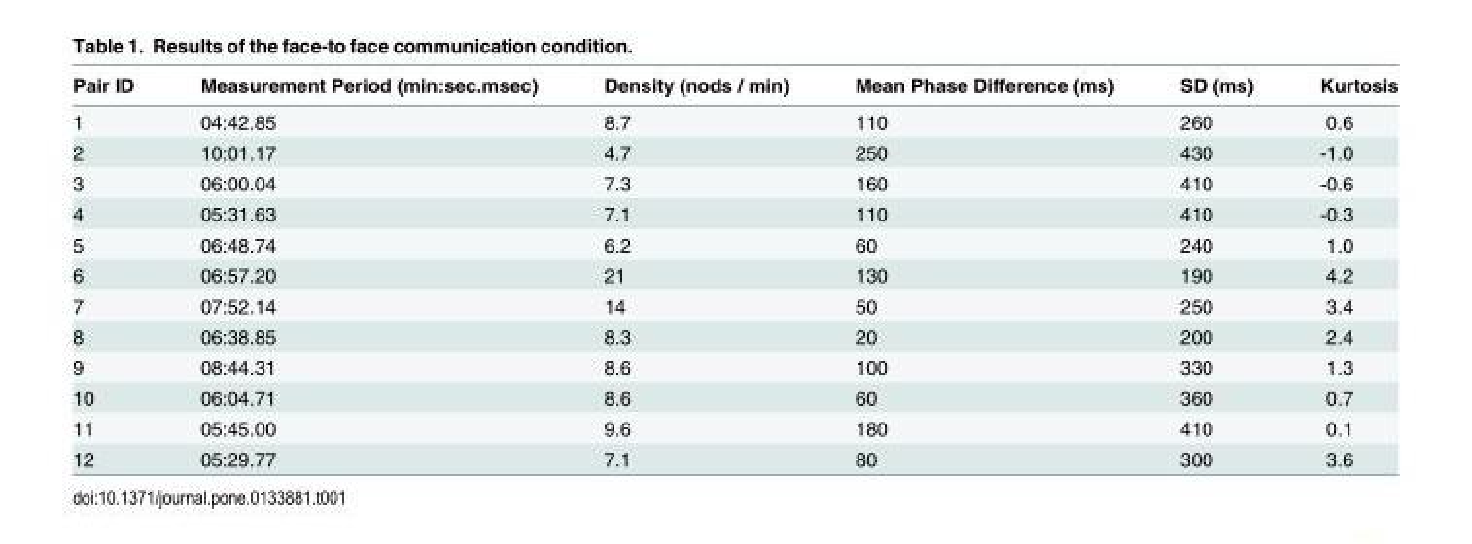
<table><thead><tr><td>Pair ID</td><td>Measurement Period (min:sec.msec)</td><td>Density (nods / min)</td><td>Mean Phase Difference (ms)</td><td>SD (ms)</td><td>Kurtosis</td></tr></thead><tbody><tr><td>1</td><td>04:42.85</td><td>8.7</td><td>110</td><td>260</td><td>0.6</td></tr><tr><td>2</td><td>10:01.17</td><td>4.7</td><td>250</td><td>430</td><td>-1.0</td></tr><tr><td>3</td><td>06:00.04</td><td>7.3</td><td>160</td><td>410</td><td>-0.6</td></tr><tr><td>4</td><td>05:31.63</td><td>7.1</td><td>110</td><td>410</td><td>-0.3</td></tr><tr><td>5</td><td>06:48.74</td><td>6.2</td><td>60</td><td>240</td><td>1.0</td></tr><tr><td>6</td><td>06:57.20</td><td>21</td><td>130</td><td>190</td><td>4.2</td></tr><tr><td>7</td><td>07:52.14</td><td>14</td><td>50</td><td>250</td><td>3.4</td></tr><tr><td>8</td><td>06:38.85</td><td>8.3</td><td>20</td><td>200</td><td>2.4</td></tr><tr><td>9</td><td>08:44.31</td><td>8.6</td><td>100</td><td>330</td><td>1.3</td></tr><tr><td>10</td><td>06:04.71</td><td>8.6</td><td>60</td><td>360</td><td>0.7</td></tr><tr><td>11</td><td>05:45.00</td><td>9.6</td><td>180</td><td>410</td><td>0.1</td></tr><tr><td>12</td><td>05:29.77</td><td>7.1</td><td>80</td><td>300</td><td>3.6</td></tr></tbody></table>